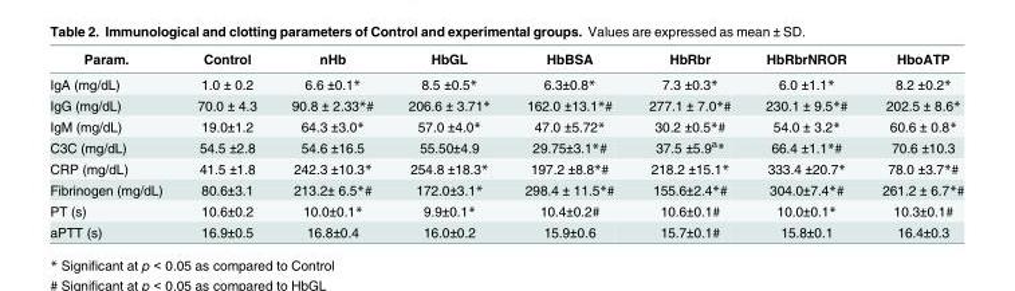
<table><thead><tr><td>Param.</td><td>Control</td><td>nHb</td><td>HbGL</td><td>HbBSA</td><td>HbRbr</td><td>HbRbrNROR</td><td>HboATP</td></tr></thead><tbody><tr><td>IgA (mg/dL)</td><td>1.0 ± 0.2</td><td>6.6 ±0.1*</td><td>8.5 ±0.5*</td><td>6.3±0.8*</td><td>7.3 ±0.3*</td><td>6.0 ±1.1*</td><td>8.2 ±0.2*</td></tr><tr><td>IgG (mg/dL)</td><td>70.0 ± 4.3</td><td>90.8 ± 2.33*#</td><td>206.6 ± 3.71*</td><td>162.0 ±13.1*#</td><td>277.1 ± 7.0*#</td><td>230.1 ± 9.5*#</td><td>202.5 ± 8.6*</td></tr><tr><td>IgM (mg/dL)</td><td>19.0±1.2</td><td>64.3 ±3.0*</td><td>57.0 ±4.0*</td><td>47.0 ±5.72*</td><td>30.2 ±0.5*#</td><td>54.0 ± 3.2*</td><td>60.6 ± 0.8*</td></tr><tr><td>C3C (mg/dL)</td><td>54.5 ±2.8</td><td>54.6 ±16.5</td><td>55.50±4.9</td><td>29.75±3.1*#</td><td>37.5 ±5.9<sup>a</sup>*</td><td>66.4 ±1.1*#</td><td>70.6 ±10.3</td></tr><tr><td>CRP (mg/dL)</td><td>41.5 ±1.8</td><td>242.3 ±10.3*</td><td>254.8 ±18.3*</td><td>197.2 ±8.8*#</td><td>218.2 ±15.1*</td><td>333.4 ±20.7*</td><td>78.0 ±3.7*#</td></tr><tr><td>Fibrinogen (mg/dL)</td><td>80.6±3.1</td><td>213.2± 6.5*#</td><td>172.0±3.1*</td><td>298.4 ± 11.5*#</td><td>155.6±2.4*#</td><td>304.0±7.4*#</td><td>261.2 ± 6.7*#</td></tr><tr><td>PT (s)</td><td>10.6±0.2</td><td>10.0±0.1*</td><td>9.9±0.1*</td><td>10.4±0.2#</td><td>10.6±0.1#</td><td>10.0±0.1*</td><td>10.3±0.1#</td></tr><tr><td>aPTT (s)</td><td>16.9±0.5</td><td>16.8±0.4</td><td>16.0±0.2</td><td>15.9±0.6</td><td>15.7±0.1#</td><td>15.8±0.1</td><td>16.4±0.3</td></tr></tbody></table>